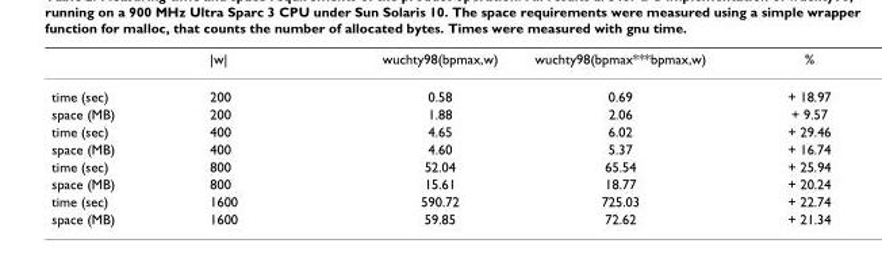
<table><thead><tr><td></td><td>|w|</td><td>wuchty98(bpmax,w)</td><td>wuchty98(bpmax***bpmax,w)</td><td>%</td></tr></thead><tbody><tr><td>time (sec)</td><td>200</td><td>0.58</td><td>0.69</td><td>+ 18.97</td></tr><tr><td>space (MB)</td><td>200</td><td>1.88</td><td>2.06</td><td>+ 9.57</td></tr><tr><td>time (sec)</td><td>400</td><td>4.65</td><td>6.02</td><td>+ 29.46</td></tr><tr><td>space (MB)</td><td>400</td><td>4.60</td><td>5.37</td><td>+ 16.74</td></tr><tr><td>time (sec)</td><td>800</td><td>52.04</td><td>65.54</td><td>+ 25.94</td></tr><tr><td>space (MB)</td><td>800</td><td>15.61</td><td>18.77</td><td>+ 20.24</td></tr><tr><td>time (sec)</td><td>1600</td><td>590.72</td><td>725.03</td><td>+ 22.74</td></tr><tr><td>space (MB)</td><td>1600</td><td>59.85</td><td>72.62</td><td>+ 21.34</td></tr></tbody></table>